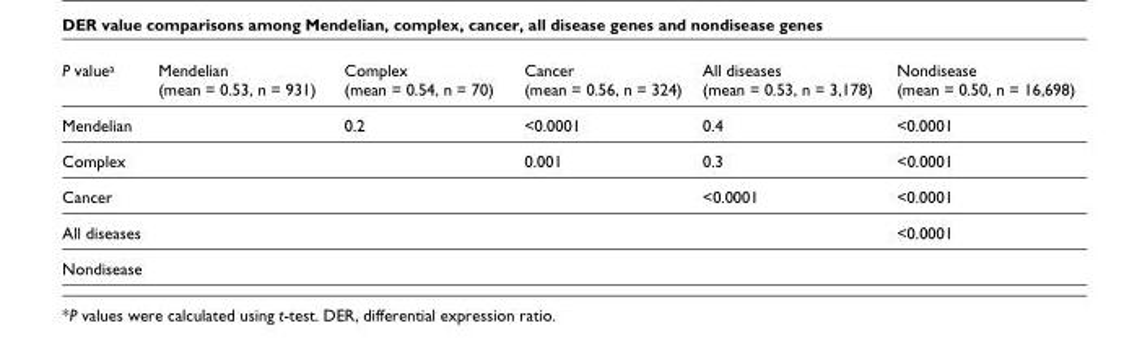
<table><thead><tr><td>P value<sup>a</sup></td><td>Mendelian (mean = 0.53, n = 931)</td><td>Complex (mean = 0.54, n = 70)</td><td>Cancer (mean = 0.56, n = 324)</td><td>All diseases (mean = 0.53, n = 3,178)</td><td>Nondisease (mean = 0.50, n = 16,698)</td></tr></thead><tbody><tr><td>Mendelian</td><td></td><td>0.2</td><td>&lt;0.0001</td><td>0.4</td><td>&lt;0.0001</td></tr><tr><td>Complex</td><td></td><td></td><td>0.001</td><td>0.3</td><td>&lt;0.0001</td></tr><tr><td>Cancer</td><td></td><td></td><td></td><td>&lt;0.0001</td><td>&lt;0.0001</td></tr><tr><td>All diseases</td><td></td><td></td><td></td><td></td><td>&lt;0.0001</td></tr><tr><td>Nondisease</td><td></td><td></td><td></td><td></td><td></td></tr></tbody></table>